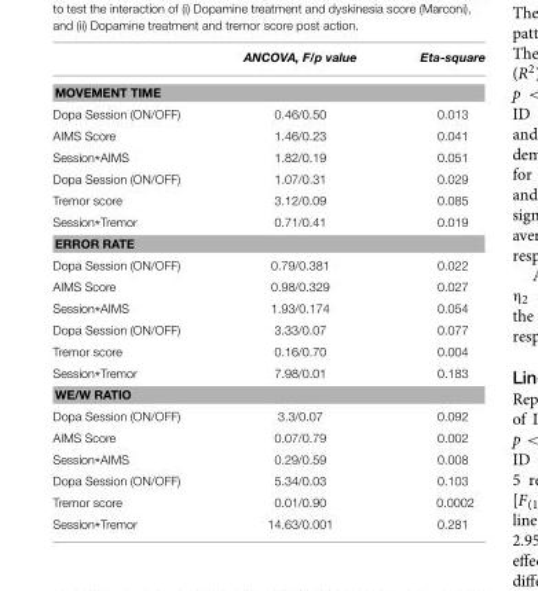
<table><thead><tr><td></td><td>ANCOVA, F/p value</td><td>Eta-square</td></tr></thead><tbody><tr><td colspan="3">MOVEMENT TIME</td></tr><tr><td>Dopa Session (ON/OFF)</td><td>0.46/0.50</td><td>0.013</td></tr><tr><td>AIMS Score</td><td>1.46/0.23</td><td>0.041</td></tr><tr><td>Session*AIMS</td><td>1.82/0.19</td><td>0.051</td></tr><tr><td>Dopa Session (ON/OFF)</td><td>1.07/0.31</td><td>0.029</td></tr><tr><td>Tremor score</td><td>3.12/0.09</td><td>0.085</td></tr><tr><td>Session*Tremor</td><td>0.71/0.41</td><td>0.019</td></tr><tr><td colspan="3">ERROR RATE</td></tr><tr><td>Dopa Session (ON/OFF)</td><td>0.79/0.381</td><td>0.022</td></tr><tr><td>AIMS Score</td><td>0.98/0.329</td><td>0.027</td></tr><tr><td>Session*AIMS</td><td>1.93/0.174</td><td>0.054</td></tr><tr><td>Dopa Session (ON/OFF)</td><td>3.33/0.07</td><td>0.077</td></tr><tr><td>Tremor score</td><td>0.16/0.70</td><td>0.004</td></tr><tr><td>Session*Tremor</td><td>7.98/0.01</td><td>0.183</td></tr><tr><td colspan="3">WE/W RATIO</td></tr><tr><td>Dopa Session (ON/OFF)</td><td>3.3/0.07</td><td>0.092</td></tr><tr><td>AIMS Score</td><td>0.07/0.79</td><td>0.002</td></tr><tr><td>Session*AIMS</td><td>0.29/0.59</td><td>0.008</td></tr><tr><td>Dopa Session (ON/OFF)</td><td>5.34/0.03</td><td>0.103</td></tr><tr><td>Tremor score</td><td>0.01/0.90</td><td>0.0002</td></tr><tr><td>Session*Tremor</td><td>14.63/0.001</td><td>0.281</td></tr></tbody></table>